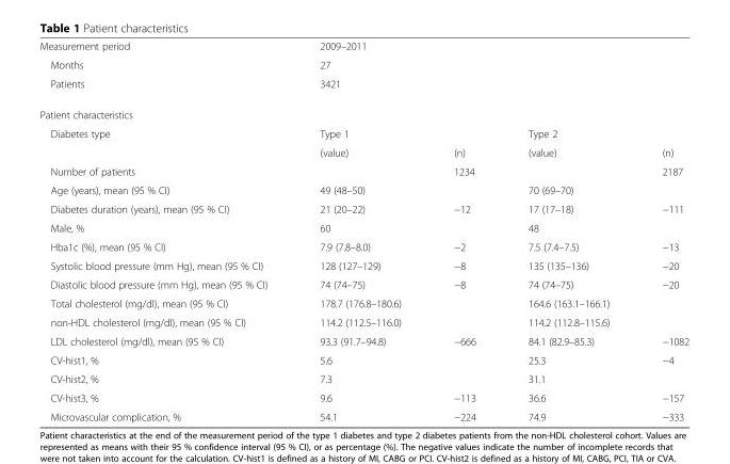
<table><tbody><tr><td>Measurement period</td><td colspan="4">2009–2011</td></tr><tr><td>Months</td><td colspan="4">27</td></tr><tr><td>Patients</td><td colspan="4">3421</td></tr><tr><td colspan="5">Patient characteristics</td></tr><tr><td rowspan="2">Diabetes type</td><td>Type 1</td><td></td><td>Type 2</td><td></td></tr><tr><td>(value)</td><td>(n)</td><td>(value)</td><td>(n)</td></tr><tr><td>Number of patients</td><td></td><td>1234</td><td></td><td>2187</td></tr><tr><td>Age (years), mean (95 % CI)</td><td>49 (48–50)</td><td></td><td>70 (69–70)</td><td></td></tr><tr><td>Diabetes duration (years), mean (95 % CI)</td><td>21 (20–22)</td><td>−12</td><td>17 (17–18)</td><td>−111</td></tr><tr><td>Male, %</td><td>60</td><td></td><td>48</td><td></td></tr><tr><td>Hba1c (%), mean (95 % CI)</td><td>7.9 (7.8–8.0)</td><td>−2</td><td>7.5 (7.4–7.5)</td><td>−13</td></tr><tr><td>Systolic blood pressure (mm Hg), mean (95 % CI)</td><td>128 (127–129)</td><td>−8</td><td>135 (135–136)</td><td>−20</td></tr><tr><td>Diastolic blood pressure (mm Hg), mean (95 % CI)</td><td>74 (74–75)</td><td>−8</td><td>74 (74–75)</td><td>−20</td></tr><tr><td>Total cholesterol (mg/dl), mean (95 % CI)</td><td>178.7 (176.8–180.6)</td><td></td><td>164.6 (163.1–166.1)</td><td></td></tr><tr><td>non-HDL cholesterol (mg/dl), mean (95 % CI)</td><td>114.2 (112.5–116.0)</td><td></td><td>114.2 (112.8–115.6)</td><td></td></tr><tr><td>LDL cholesterol (mg/dl), mean (95 % CI)</td><td>93.3 (91.7–94.8)</td><td>−666</td><td>84.1 (82.9–85.3)</td><td>−1082</td></tr><tr><td>CV-hist1, %</td><td>5.6</td><td></td><td>25.3</td><td>−4</td></tr><tr><td>CV-hist2, %</td><td>7.3</td><td></td><td>31.1</td><td></td></tr><tr><td>CV-hist3, %</td><td>9.6</td><td>−113</td><td>36.6</td><td>−157</td></tr><tr><td>Microvascular complication, %</td><td>54.1</td><td>−224</td><td>74.9</td><td>−333</td></tr></tbody></table>